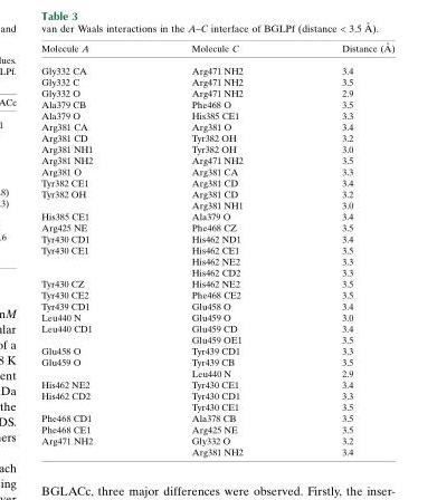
<table><thead><tr><td>Molecule A</td><td>Molecule C</td><td>Distance (A˚ )</td></tr></thead><tbody><tr><td>Gly332 CA</td><td>Arg471 NH2</td><td>3.4</td></tr><tr><td>Gly332 C</td><td>Arg471 NH2</td><td>3.5</td></tr><tr><td>Gly332 O</td><td>Arg471 NH2</td><td>2.9</td></tr><tr><td>Ala379 CB</td><td>Phe468 O</td><td>3.5</td></tr><tr><td>Ala379 O</td><td>His385 CE1</td><td>3.3</td></tr><tr><td>Arg381 CA</td><td>Arg381 O</td><td>3.4</td></tr><tr><td>Arg381 CD</td><td>Tyr382 OH</td><td>3.2</td></tr><tr><td>Arg381 NH1</td><td>Tyr382 OH</td><td>3.0</td></tr><tr><td>Arg381 NH2</td><td>Arg471 NH2</td><td>3.5</td></tr><tr><td>Arg381 O</td><td>Arg381 CA</td><td>3.3</td></tr><tr><td>Tyr382 CE1</td><td>Arg381 CD</td><td>3.4</td></tr><tr><td rowspan="2">Tyr382 OH</td><td>Arg381 CD</td><td>3.2</td></tr><tr><td>Arg381 NH1</td><td>3.0</td></tr><tr><td>His385 CE1</td><td>Ala379 O</td><td>3.4</td></tr><tr><td>Arg425 NE</td><td>Phe468 CZ</td><td>3.5</td></tr><tr><td>Tyr430 CD1</td><td>His462 ND1</td><td>3.4</td></tr><tr><td rowspan="3">Tyr430 CE1</td><td>His462 CE1</td><td>3.5</td></tr><tr><td>His462 NE2</td><td>3.3</td></tr><tr><td>His462 CD2</td><td>3.3</td></tr><tr><td>Tyr430 CZ</td><td>His462 NE2</td><td>3.5</td></tr><tr><td>Tyr430 CE2</td><td>Phe468 CE2</td><td>3.5</td></tr><tr><td>Tyr439 CD1</td><td>Glu458 O</td><td>3.4</td></tr><tr><td>Leu440 N</td><td>Glu459 O</td><td>3.0</td></tr><tr><td rowspan="2">Leu440 CD1</td><td>Glu459 CD</td><td>3.4</td></tr><tr><td>Glu459 OE1</td><td>3.5</td></tr><tr><td>Glu458 O</td><td>Tyr439 CD1</td><td>3.3</td></tr><tr><td rowspan="2">Glu459 O</td><td>Tyr439 CB</td><td>3.5</td></tr><tr><td>Leu440 N</td><td>2.9</td></tr><tr><td>His462 NE2</td><td>Tyr430 CE1</td><td>3.4</td></tr><tr><td rowspan="2">His462 CD2</td><td>Tyr430 CD1</td><td>3.3</td></tr><tr><td>Tyr430 CE1</td><td>3.5</td></tr><tr><td>Phe468 CD1</td><td>Ala378 CB</td><td>3.5</td></tr><tr><td>Phe468 CE1</td><td>Arg425 NE</td><td>3.5</td></tr><tr><td rowspan="2">Arg471 NH2</td><td>Gly332 O</td><td>3.2</td></tr><tr><td>Arg381 NH2</td><td>3.4</td></tr></tbody></table>